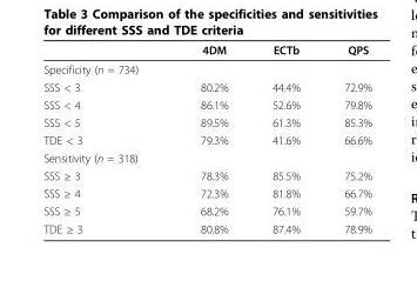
<table><thead><tr><td></td><td>4DM</td><td>ECTb</td><td>QPS</td></tr></thead><tbody><tr><td colspan="4">Specificity (n = 734)</td></tr><tr><td>SSS &lt; 3</td><td>80.2%</td><td>44.4%</td><td>72.9%</td></tr><tr><td>SSS &lt; 4</td><td>86.1%</td><td>52.6%</td><td>79.8%</td></tr><tr><td>SSS &lt; 5</td><td>89.5%</td><td>61.3%</td><td>85.3%</td></tr><tr><td>TDE &lt; 3</td><td>79.3%</td><td>41.6%</td><td>66.6%</td></tr><tr><td colspan="4">Sensitivity (n = 318)</td></tr><tr><td>SSS ≥ 3</td><td>78.3%</td><td>85.5%</td><td>75.2%</td></tr><tr><td>SSS ≥ 4</td><td>72.3%</td><td>81.8%</td><td>66.7%</td></tr><tr><td>SSS ≥ 5</td><td>68.2%</td><td>76.1%</td><td>59.7%</td></tr><tr><td>TDE ≥ 3</td><td>80.8%</td><td>87.4%</td><td>78.9%</td></tr></tbody></table>